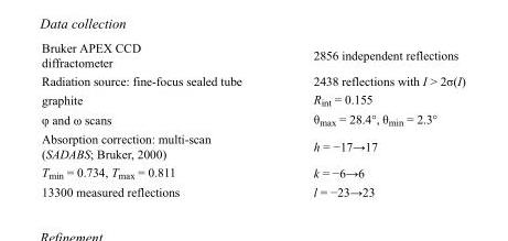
<table><tbody><tr><td>Bruker APEX CCD diffractometer</td><td>2856 independent reflections</td></tr><tr><td>Radiation source: fine-focus sealed tube</td><td>2438 reflections with I &gt; 2σ(I)</td></tr><tr><td>graphite</td><td>R<sub>int</sub> = 0.155</td></tr><tr><td>φ and ω scans</td><td>θ<sub>max</sub> = 28.4°, θ<sub>min</sub> = 2.3°</td></tr><tr><td>Absorption correction: multi-scan (SADABS; Bruker, 2000)</td><td>h = −17→17</td></tr><tr><td>T<sub>min</sub> = 0.734, T<sub>max</sub> = 0.811</td><td>k = −6→6</td></tr><tr><td>13300 measured reflections</td><td>l = −23→23</td></tr></tbody></table>